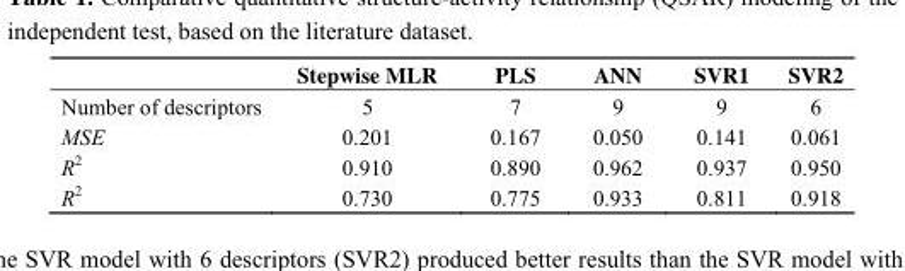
<table><thead><tr><td></td><td>Stepwise MLR</td><td>PLS</td><td>ANN</td><td>SVR1</td><td>SVR2</td></tr></thead><tbody><tr><td>Number of descriptors</td><td>5</td><td>7</td><td>9</td><td>9</td><td>6</td></tr><tr><td>MSE</td><td>0.201</td><td>0.167</td><td>0.050</td><td>0.141</td><td>0.061</td></tr><tr><td>R<sup>2</sup></td><td>0.910</td><td>0.890</td><td>0.962</td><td>0.937</td><td>0.950</td></tr><tr><td>R<sup>2</sup></td><td>0.730</td><td>0.775</td><td>0.933</td><td>0.811</td><td>0.918</td></tr></tbody></table>